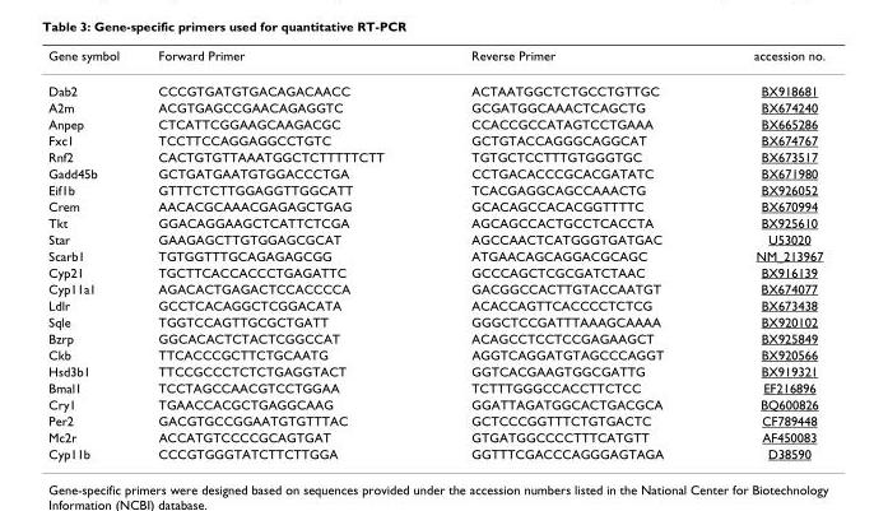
<table><thead><tr><td>Gene symbol</td><td>Forward Primer</td><td>Reverse Primer</td><td>accession no.</td></tr></thead><tbody><tr><td>Dab2</td><td>CCCGTGATGTGACAGACAACC</td><td>ACTAATGGCTCTGCCTGTTGC</td><td>BX918681</td></tr><tr><td>A2m</td><td>ACGTGAGCCGAACAGAGGTC</td><td>GCGATGGCAAACTCAGCTG</td><td>BX674240</td></tr><tr><td>Anpep</td><td>CTCATTCGGAAGCAAGACGC</td><td>CCACCGCCATAGTCCTGAAA</td><td>BX665286</td></tr><tr><td>Fxc1</td><td>TCCTTCCAGGAGGCCTGTC</td><td>GCTGTACCAGGGCAGGCAT</td><td>BX674767</td></tr><tr><td>Rnf2</td><td>CACTGTGTTAAATGGCTCTTTTTCTT</td><td>TGTGCTCCTTTGTGGGTGC</td><td>BX673517</td></tr><tr><td>Gadd45b</td><td>GCTGATGAATGTGGACCCTGA</td><td>CCTGACACCCGCACGATATC</td><td>BX671980</td></tr><tr><td>Eif1b</td><td>GTTTCTCTTGGAGGTTGGCATT</td><td>TCACGAGGCAGCCAAACTG</td><td>BX926052</td></tr><tr><td>Crem</td><td>AACACGCAAACGAGAGCTGAG</td><td>GCACAGCCACACGGTTTTC</td><td>BX670994</td></tr><tr><td>Tkt</td><td>GGACAGGAAGCTCATTCTCGA</td><td>AGCAGCCACTGCCTCACCTA</td><td>BX925610</td></tr><tr><td>Star</td><td>GAAGAGCTTGTGGAGCGCAT</td><td>AGCCAACTCATGGGTGATGAC</td><td>U53020</td></tr><tr><td>Scarb1</td><td>TGTGGTTTGCAGAGAGCGG</td><td>ATGAACAGCAGGACGCAGC</td><td>NM_213967</td></tr><tr><td>Cyp21</td><td>TGCTTCACCACCCTGAGATTC</td><td>GCCCAGCTCGCGATCTAAC</td><td>BX916139</td></tr><tr><td>Cyp11a1</td><td>AGACACTGAGACTCCACCCCA</td><td>GACGGCCACTTGTACCAATGT</td><td>BX674077</td></tr><tr><td>Ldlr</td><td>GCCTCACAGGCTCGGACATA</td><td>ACACCAGTTCACCCCTCTCG</td><td>BX673438</td></tr><tr><td>Sqle</td><td>TGGTCCAGTTGCGCTGATT</td><td>GGGCTCCGATTTAAAGCAAAA</td><td>BX920102</td></tr><tr><td>Bzrp</td><td>GGCACACTCTACTCGGCCAT</td><td>ACAGCCTCCTCCGAGAAGCT</td><td>BX925849</td></tr><tr><td>Ckb</td><td>TTCACCCGCTTCTGCAATG</td><td>AGGTCAGGATGTAGCCCAGGT</td><td>BX920566</td></tr><tr><td>Hsd3b1</td><td>TTCCGCCCTCTCTGAGGTACT</td><td>GGTCACGAAGTGGCGATTG</td><td>BX919321</td></tr><tr><td>Bmal1</td><td>TCCTAGCCAACGTCCTGGAA</td><td>TCTTTGGGCCACCTTCTCC</td><td>EF216896</td></tr><tr><td>Cry1</td><td>TGAACCACGCTGAGGCAAG</td><td>GGATTAGATGGCACTGACGCA</td><td>BQ600826</td></tr><tr><td>Per2</td><td>GACGTGCCGGAATGTGTTTAC</td><td>GCTCCCGGTTTCTGTGACTC</td><td>CF789448</td></tr><tr><td>Mc2r</td><td>ACCATGTCCCCGCAGTGAT</td><td>GTGATGGCCCCTTTCATGTT</td><td>AF450083</td></tr><tr><td>Cyp11b</td><td>CCCGTGGGTATCTTCTTGGA</td><td>GGTTTCGACCCAGGGAGTAGA</td><td>D38590</td></tr></tbody></table>